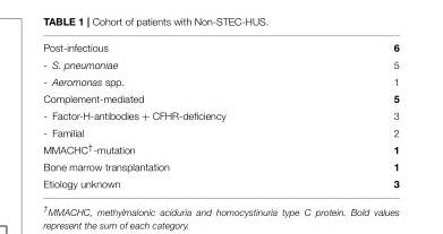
<table><tbody><tr><td>Post-infectious</td><td>6</td></tr><tr><td>- S. pneumoniae</td><td>5</td></tr><tr><td>- Aeromonas spp.</td><td>1</td></tr><tr><td>Complement-mediated</td><td>5</td></tr><tr><td>- Factor-H-antibodies + CFHR-deficiency</td><td>3</td></tr><tr><td>- Familial</td><td>2</td></tr><tr><td>MMACHC<sup>†</sup>-mutation</td><td>1</td></tr><tr><td>Bone marrow transplantation</td><td>1</td></tr><tr><td>Etiology unknown</td><td>3</td></tr></tbody></table>